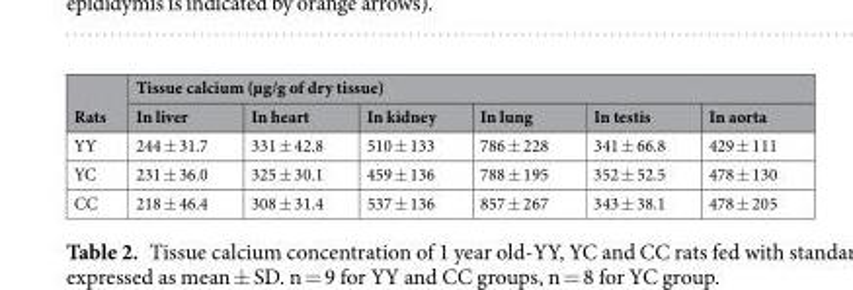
<table><thead><tr><td rowspan="2">Rats</td><td colspan="6">Tissue calcium (µg/g of dry tissue)</td></tr><tr><td>In liver</td><td>In heart</td><td>In kidney</td><td>In lung</td><td>In testis</td><td>In aorta</td></tr></thead><tbody><tr><td>YY</td><td>244 ± 31.7</td><td>331 ± 42.8</td><td>510 ± 133</td><td>786 ± 228</td><td>341 ± 66.8</td><td>429 ± 111</td></tr><tr><td>YC</td><td>231 ± 36.0</td><td>325 ± 30.1</td><td>459 ± 136</td><td>788 ± 195</td><td>352 ± 52.5</td><td>478 ± 130</td></tr><tr><td>CC</td><td>218 ± 46.4</td><td>308 ± 31.4</td><td>537 ± 136</td><td>857 ± 267</td><td>343 ± 38.1</td><td>478 ± 205</td></tr></tbody></table>